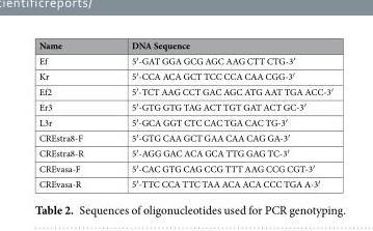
<table><thead><tr><td>Name</td><td>DNA Sequence</td></tr></thead><tbody><tr><td>Ef</td><td>5′-GAT GGA GCG AGC AAG CTT CTG-3′</td></tr><tr><td>Kr</td><td>5′-CCA ACA GCT TCC CCA CAA CGG-3′</td></tr><tr><td>Ef2</td><td>5′-TCT AAG CCT GAC AGC ATG AAT TGA ACC-3′</td></tr><tr><td>Er3</td><td>5′-GTG GTG TAG ACT TGT GAT ACT GC-3′</td></tr><tr><td>L3r</td><td>5′-GCA GGT CTC CAC TGA CAC TG-3′</td></tr><tr><td>CREstra8-F</td><td>5′-GTG CAA GCT GAA CAA CAG GA-3′</td></tr><tr><td>CREstra8-R</td><td>5′-AGG GAC ACA GCA TTG GAG TC-3′</td></tr><tr><td>CREvasa-F</td><td>5′-CAC GTG CAG CCG TTT AAG CCG CGT-3′</td></tr><tr><td>CREvasa-R</td><td>5′-TTC CCA TTC TAA ACA ACA CCC TGA A-3′</td></tr></tbody></table>